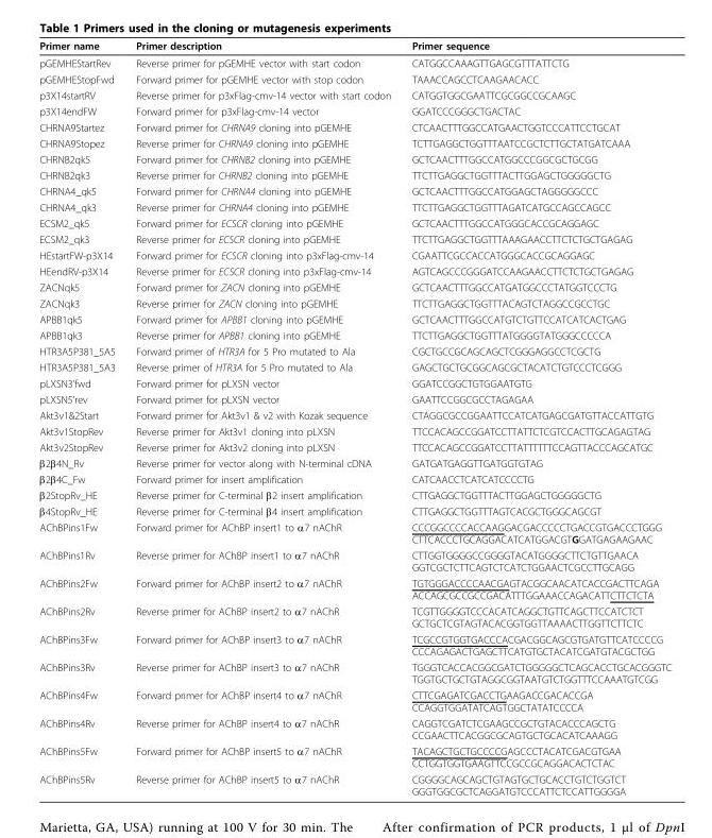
<table><thead><tr><td>Primer name</td><td>Primer description</td><td>Primer sequence</td></tr></thead><tbody><tr><td>pGEMHEStartRev</td><td>Reverse primer for pGEMHE vector with start codon</td><td>CATGGCCAAAGTTGAGCGTTTATTCTG</td></tr><tr><td>pGEMHEStopFwd</td><td>Forward primer for pGEMHE vector with stop codon</td><td>TAAACCAGCCTCAAGAACACC</td></tr><tr><td>p3X14startRV</td><td>Reverse primer for p3xFlag-cmv-14 vector with start codon</td><td>CATGGTGGCGAATTCGCGGCCGCAAGC</td></tr><tr><td>p3X14endFW</td><td>Forward primer for p3xFlag-cmv-14 vector</td><td>GGATCCCGGGCTGACTAC</td></tr><tr><td>CHRNA9Startez</td><td>Forward primer for CHRNA9 cloning into pGEMHE</td><td>CTCAACTTTGGCCATGAACTGGTCCCATTCCTGCAT</td></tr><tr><td>CHRNA9Stopez</td><td>Reverse primer for CHRNA9 cloning into pGEMHE</td><td>TCTTGAGGCTGGTTTAATCCGCTCTTGCTATGATCAAA</td></tr><tr><td>CHRNB2qk5</td><td>Forward primer for CHRNB2 cloning into pGEMHE</td><td>GCTCAACTTTGGCCATGGCCCGGCGCTGCGG</td></tr><tr><td>CHRNB2qk3</td><td>Reverse primer for CHRNB2 cloning into pGEMHE</td><td>TTCTTGAGGCTGGTTTACTTGGAGCTGGGGGCTG</td></tr><tr><td>CHRNA4_qk5</td><td>Forward primer for CHRNA4 cloning into pGEMHE</td><td>GCTCAACTTTGGCCATGGAGCTAGGGGGCCC</td></tr><tr><td>CHRNA4_qk3</td><td>Reverse primer for CHRNA4 cloning into pGEMHE</td><td>TTCTTGAGGCTGGTTTAGATCATGCCAGCCAGCC</td></tr><tr><td>ECSM2_qk5</td><td>Forward primer for ECSCR cloning into pGEMHE</td><td>GCTCAACTTTGGCCATGGGCACCGCAGGAGC</td></tr><tr><td>ECSM2_qk3</td><td>Reverse primer for ECSCR cloning into pGEMHE</td><td>TTCTTGAGGCTGGTTTAAAGAACCTTCTCTGCTGAGAG</td></tr><tr><td>HEstartFW-p3X14</td><td>Forward primer for ECSCR cloning into p3xFlag-cmv-14</td><td>CGAATTCGCCACCATGGGCACCGCAGGAGC</td></tr><tr><td>HEendRV-p3X14</td><td>Reverse primer for ECSCR cloning into p3xFlag-cmv-14</td><td>AGTCAGCCCGGGATCCAAGAACCTTCTCTGCTGAGAG</td></tr><tr><td>ZACNqk5</td><td>Forward primer for ZACN cloning into pGEMHE</td><td>GCTCAACTTTGGCCATGATGGCCCTATGGTCCCTG</td></tr><tr><td>ZACNqk3</td><td>Reverse primer for ZACN cloning into pGEMHE</td><td>TTCTTGAGGCTGGTTTACAGTCTAGGCCGCCTGC</td></tr><tr><td>APBB1qk5</td><td>Forward primer for APBB1 cloning into pGEMHE</td><td>GCTCAACTTTGGCCATGTCTGTTCCATCATCACTGAG</td></tr><tr><td>APBB1qk3</td><td>Reverse primer for APBB1 cloning into pGEMHE</td><td>TTCTTGAGGCTGGTTTATGGGGTATGGGCCCCCA</td></tr><tr><td>HTR3A5P381_5A5</td><td>Forward primer of HTR3A for 5 Pro mutated to Ala</td><td>CGCTGCCGCAGCAGCTCGGGAGGCCTCGCTG</td></tr><tr><td>HTR3A5P381_5A3</td><td>Reverse primer of HTR3A for 5 Pro mutated to Ala</td><td>GAGCTGCTGCGGCAGCGCTACATCTGTCCCTCGGG</td></tr><tr><td>pLXSN3’fwd</td><td>Forward primer for pLXSN vector</td><td>GGATCCGGCTGTGGAATGTG</td></tr><tr><td>pLXSN5’rev</td><td>Forward primer for pLXSN vector</td><td>GAATTCCGGCGCCTAGAGAA</td></tr><tr><td>Akt3v1&amp;2Start</td><td>Forward primer for Akt3v1 &amp; v2 with Kozak sequence</td><td>CTAGGCGCCGGAATTCCATCATGAGCGATGTTACCATTGTG</td></tr><tr><td>Akt3v1StopRev</td><td>Reverse primer for Akt3v1 cloning into pLXSN</td><td>TTCCACAGCCGGATCCTTATTCTCGTCCACTTGCAGAGTAG</td></tr><tr><td>Akt3v2StopRev</td><td>Reverse primer for Akt3v2 cloning into pLXSN</td><td>TTCCACAGCCGGATCCTTATTTTTTCCAGTTACCCAGCATGC</td></tr><tr><td>β2β4N_Rv</td><td>Reverse primer for vector along with N-terminal cDNA</td><td>GATGATGAGGTTGATGGTGTAG</td></tr><tr><td>β2β4C_Fw</td><td>Forward primer for insert amplification</td><td>CATCAACCTCATCATCCCCTG</td></tr><tr><td>β2StopRv_HE</td><td>Reverse primer for C-terminal β2 insert amplification</td><td>CTTGAGGCTGGTTTACTTGGAGCTGGGGGCTG</td></tr><tr><td>β4StopRv_HE</td><td>Reverse primer for C-terminal β4 insert amplification</td><td>CTTGAGGCTGGTTTAGTCACGCTGGGCAGCGT</td></tr><tr><td>AChBPins1Fw</td><td>Forward primer for AChBP insert1 to α7 nAChR</td><td>CCCGGCCCCACCAAGGACGACCCCCTGACCGTGACCCTGGG CTTCACCCTGCAGGACATCATGGACGTGGATGAGAAGAAC</td></tr><tr><td>AChBPins1Rv</td><td>Reverse primer for AChBP insert1 to α7 nAChR</td><td>CTTGGTGGGGCCGGGGTACATGGGGCTTCTGTTGAACA GGTCGCTCTTCAGTCTCATCTGGAACTCGCCTTGCAGG</td></tr><tr><td>AChBPins2Fw</td><td>Forward primer for AChBP insert2 to α7 nAChR</td><td>TGTGGGACCCCAACGAGTACGGCAACATCACCGACTTCAGA ACCAGCGCCGCCGACATTTGGAAACCAGACATTCTTCTCTA</td></tr><tr><td>AChBPins2Rv</td><td>Reverse primer for AChBP insert2 to α7 nAChR</td><td>TCGTTGGGGTCCCACATCAGGCTGTTCAGCTTCCATCTCT GCTGCTCGTAGTACACGGTGGTTAAAACTTGGTTCTTCTC</td></tr><tr><td>AChBPins3Fw</td><td>Forward primer for AChBP insert3 to α7 nAChR</td><td>TCGCCGTGGTGACCCACGACGGCAGCGTGATGTTCATCCCCG CCCAGAGACTGAGCTTCATGTGCTACATCGATGTACGCTGG</td></tr><tr><td>AChBPins3Rv</td><td>Reverse primer for AChBP insert3 to α7 nAChR</td><td>TGGGTCACCACGGCGATCTGGGGGCTCAGCACCTGCACGGGTC TGGTGCTGCTGTAGGCGGTAATGTCTGGTTTCCAAATGTCGG</td></tr><tr><td>AChBPins4Fw</td><td>Forward primer for AChBP insert4 to α7 nAChR</td><td>CTTCGAGATCGACCTGAAGACCGACACCGA CCAGGTGGATATCAGTGGCTATATCCCCA</td></tr><tr><td>AChBPins4Rv</td><td>Reverse primer for AChBP insert4 to α7 nAChR</td><td>CAGGTCGATCTCGAAGCCGCTGTACACCCAGCTG CCGAACTTCACGGCGCAGTGCTGCACATCAAAGG</td></tr><tr><td>AChBPins5Fw</td><td>Forward primer for AChBP insert5 to α7 nAChR</td><td>TACAGCTGCTGCCCCGAGCCCTACATCGACGTGAA CCTGGTGGTGAAGTTCCGCCGCAGGACACTCTAC</td></tr><tr><td>AChBPins5Rv</td><td>Reverse primer for AChBP insert5 to α7 nAChR</td><td>CGGGGCAGCAGCTGTAGTGCTGCACCTGTCTGGTCT GGGTGGCGCTCAGGATGTCCCATTCTCCATTGGGGA</td></tr></tbody></table>